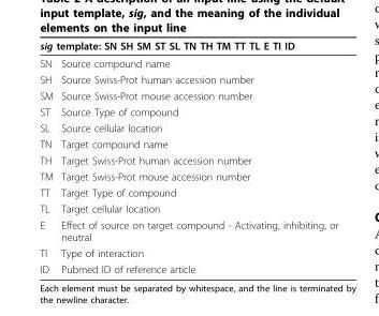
<table><thead><tr><td colspan="2">sig template: SN SH SM ST SL TN TH TM TT TL E TI ID</td></tr><tr><td>SN</td><td>Source compound name</td></tr></thead><tbody><tr><td>SH</td><td>Source Swiss-Prot human accession number</td></tr><tr><td>SM</td><td>Source Swiss-Prot mouse accession number</td></tr><tr><td>ST</td><td>Source Type of compound</td></tr><tr><td>SL</td><td>Source cellular location</td></tr><tr><td>TN</td><td>Target compound name</td></tr><tr><td>TH</td><td>Target Swiss-Prot human accession number</td></tr><tr><td>TM</td><td>Target Swiss-Prot mouse accession number</td></tr><tr><td>TT</td><td>Target Type of compound</td></tr><tr><td>TL</td><td>Target cellular location</td></tr><tr><td>E</td><td>Effect of source on target compound - Activating, inhibiting, or neutral</td></tr><tr><td>TI</td><td>Type of interaction</td></tr><tr><td>ID</td><td>Pubmed ID of reference article</td></tr></tbody></table>